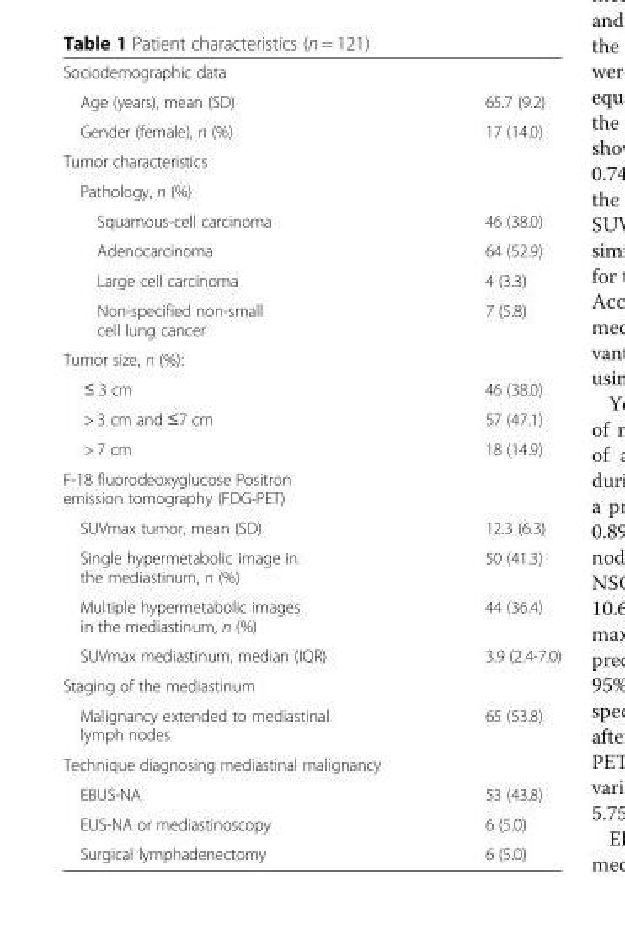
<table><tbody><tr><td colspan="2">Sociodemographic data</td></tr><tr><td>Age (years), mean (SD)</td><td>65.7 (9.2)</td></tr><tr><td>Gender (female), n (%)</td><td>17 (14.0)</td></tr><tr><td colspan="2">Tumor characteristics</td></tr><tr><td colspan="2">Pathology, n (%)</td></tr><tr><td>Squamous-cell carcinoma</td><td>46 (38.0)</td></tr><tr><td>Adenocarcinoma</td><td>64 (52.9)</td></tr><tr><td>Large cell carcinoma</td><td>4 (3.3)</td></tr><tr><td>Non-specified non-small cell lung cancer</td><td>7 (5.8)</td></tr><tr><td colspan="2">Tumor size, n (%):</td></tr><tr><td>≤ 3 cm</td><td>46 (38.0)</td></tr><tr><td>&gt; 3 cm and ≤7 cm</td><td>57 (47.1)</td></tr><tr><td>&gt; 7 cm</td><td>18 (14.9)</td></tr><tr><td colspan="2">F-18 fluorodeoxyglucose Positron emission tomography (FDG-PET)</td></tr><tr><td>SUVmax tumor, mean (SD)</td><td>12.3 (6.3)</td></tr><tr><td>Single hypermetabolic image in the mediastinum, n (%)</td><td>50 (41.3)</td></tr><tr><td>Multiple hypermetabolic images in the mediastinum, n (%)</td><td>44 (36.4)</td></tr><tr><td>SUVmax mediastinum, median (IQR)</td><td>3.9 (2.4-7.0)</td></tr><tr><td colspan="2">Staging of the mediastinum</td></tr><tr><td>Malignancy extended to mediastinal lymph nodes</td><td>65 (53.8)</td></tr><tr><td colspan="2">Technique diagnosing mediastinal malignancy</td></tr><tr><td>EBUS-NA</td><td>53 (43.8)</td></tr><tr><td>EUS-NA or mediastinoscopy</td><td>6 (5.0)</td></tr><tr><td>Surgical lymphadenectomy</td><td>6 (5.0)</td></tr></tbody></table>